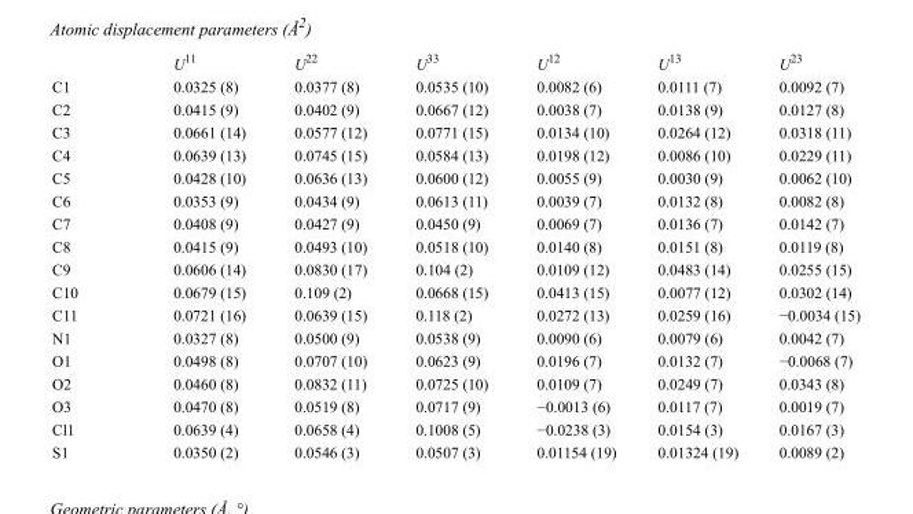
<table><thead><tr><td></td><td>U<sup>11</sup></td><td>U<sup>22</sup></td><td>U<sup>33</sup></td><td>U<sup>12</sup></td><td>U<sup>13</sup></td><td>U<sup>23</sup></td></tr></thead><tbody><tr><td>C1</td><td>0.0325 (8)</td><td>0.0377 (8)</td><td>0.0535 (10)</td><td>0.0082 (6)</td><td>0.0111 (7)</td><td>0.0092 (7)</td></tr><tr><td>C2</td><td>0.0415 (9)</td><td>0.0402 (9)</td><td>0.0667 (12)</td><td>0.0038 (7)</td><td>0.0138 (9)</td><td>0.0127 (8)</td></tr><tr><td>C3</td><td>0.0661 (14)</td><td>0.0577 (12)</td><td>0.0771 (15)</td><td>0.0134 (10)</td><td>0.0264 (12)</td><td>0.0318 (11)</td></tr><tr><td>C4</td><td>0.0639 (13)</td><td>0.0745 (15)</td><td>0.0584 (13)</td><td>0.0198 (12)</td><td>0.0086 (10)</td><td>0.0229 (11)</td></tr><tr><td>C5</td><td>0.0428 (10)</td><td>0.0636 (13)</td><td>0.0600 (12)</td><td>0.0055 (9)</td><td>0.0030 (9)</td><td>0.0062 (10)</td></tr><tr><td>C6</td><td>0.0353 (9)</td><td>0.0434 (9)</td><td>0.0613 (11)</td><td>0.0039 (7)</td><td>0.0132 (8)</td><td>0.0082 (8)</td></tr><tr><td>C7</td><td>0.0408 (9)</td><td>0.0427 (9)</td><td>0.0450 (9)</td><td>0.0069 (7)</td><td>0.0136 (7)</td><td>0.0142 (7)</td></tr><tr><td>C8</td><td>0.0415 (9)</td><td>0.0493 (10)</td><td>0.0518 (10)</td><td>0.0140 (8)</td><td>0.0151 (8)</td><td>0.0119 (8)</td></tr><tr><td>C9</td><td>0.0606 (14)</td><td>0.0830 (17)</td><td>0.104 (2)</td><td>0.0109 (12)</td><td>0.0483 (14)</td><td>0.0255 (15)</td></tr><tr><td>C10</td><td>0.0679 (15)</td><td>0.109 (2)</td><td>0.0668 (15)</td><td>0.0413 (15)</td><td>0.0077 (12)</td><td>0.0302 (14)</td></tr><tr><td>C11</td><td>0.0721 (16)</td><td>0.0639 (15)</td><td>0.118 (2)</td><td>0.0272 (13)</td><td>0.0259 (16)</td><td>−0.0034 (15)</td></tr><tr><td>N1</td><td>0.0327 (8)</td><td>0.0500 (9)</td><td>0.0538 (9)</td><td>0.0090 (6)</td><td>0.0079 (6)</td><td>0.0042 (7)</td></tr><tr><td>O1</td><td>0.0498 (8)</td><td>0.0707 (10)</td><td>0.0623 (9)</td><td>0.0196 (7)</td><td>0.0132 (7)</td><td>−0.0068 (7)</td></tr><tr><td>O2</td><td>0.0460 (8)</td><td>0.0832 (11)</td><td>0.0725 (10)</td><td>0.0109 (7)</td><td>0.0249 (7)</td><td>0.0343 (8)</td></tr><tr><td>O3</td><td>0.0470 (8)</td><td>0.0519 (8)</td><td>0.0717 (9)</td><td>−0.0013 (6)</td><td>0.0117 (7)</td><td>0.0019 (7)</td></tr><tr><td>Cl1</td><td>0.0639 (4)</td><td>0.0658 (4)</td><td>0.1008 (5)</td><td>−0.0238 (3)</td><td>0.0154 (3)</td><td>0.0167 (3)</td></tr><tr><td>S1</td><td>0.0350 (2)</td><td>0.0546 (3)</td><td>0.0507 (3)</td><td>0.01154 (19)</td><td>0.01324 (19)</td><td>0.0089 (2)</td></tr></tbody></table>